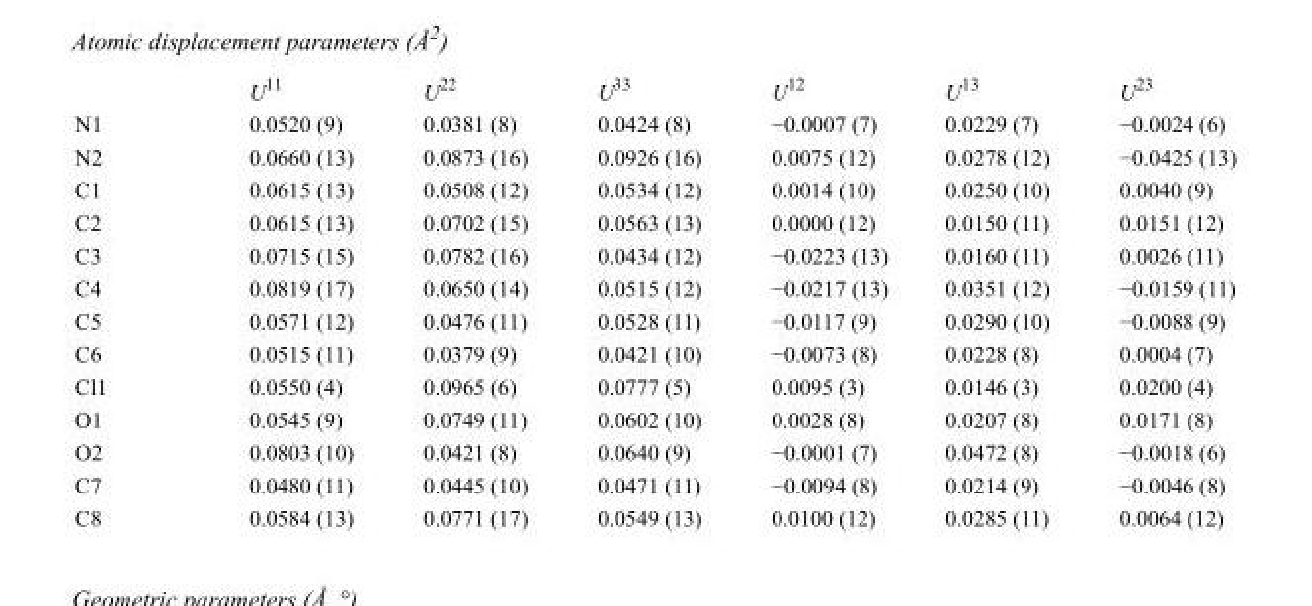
<table><thead><tr><td></td><td>U<sup>11</sup></td><td>U<sup>22</sup></td><td>U<sup>33</sup></td><td>U<sup>12</sup></td><td>U<sup>13</sup></td><td>U<sup>23</sup></td></tr></thead><tbody><tr><td>N1</td><td>0.0520 (9)</td><td>0.0381 (8)</td><td>0.0424 (8)</td><td>−0.0007 (7)</td><td>0.0229 (7)</td><td>−0.0024 (6)</td></tr><tr><td>N2</td><td>0.0660 (13)</td><td>0.0873 (16)</td><td>0.0926 (16)</td><td>0.0075 (12)</td><td>0.0278 (12)</td><td>−0.0425 (13)</td></tr><tr><td>C1</td><td>0.0615 (13)</td><td>0.0508 (12)</td><td>0.0534 (12)</td><td>0.0014 (10)</td><td>0.0250 (10)</td><td>0.0040 (9)</td></tr><tr><td>C2</td><td>0.0615 (13)</td><td>0.0702 (15)</td><td>0.0563 (13)</td><td>0.0000 (12)</td><td>0.0150 (11)</td><td>0.0151 (12)</td></tr><tr><td>C3</td><td>0.0715 (15)</td><td>0.0782 (16)</td><td>0.0434 (12)</td><td>−0.0223 (13)</td><td>0.0160 (11)</td><td>0.0026 (11)</td></tr><tr><td>C4</td><td>0.0819 (17)</td><td>0.0650 (14)</td><td>0.0515 (12)</td><td>−0.0217 (13)</td><td>0.0351 (12)</td><td>−0.0159 (11)</td></tr><tr><td>C5</td><td>0.0571 (12)</td><td>0.0476 (11)</td><td>0.0528 (11)</td><td>−0.0117 (9)</td><td>0.0290 (10)</td><td>−0.0088 (9)</td></tr><tr><td>C6</td><td>0.0515 (11)</td><td>0.0379 (9)</td><td>0.0421 (10)</td><td>−0.0073 (8)</td><td>0.0228 (8)</td><td>0.0004 (7)</td></tr><tr><td>Cl1</td><td>0.0550 (4)</td><td>0.0965 (6)</td><td>0.0777 (5)</td><td>0.0095 (3)</td><td>0.0146 (3)</td><td>0.0200 (4)</td></tr><tr><td>O1</td><td>0.0545 (9)</td><td>0.0749 (11)</td><td>0.0602 (10)</td><td>0.0028 (8)</td><td>0.0207 (8)</td><td>0.0171 (8)</td></tr><tr><td>O2</td><td>0.0803 (10)</td><td>0.0421 (8)</td><td>0.0640 (9)</td><td>−0.0001 (7)</td><td>0.0472 (8)</td><td>−0.0018 (6)</td></tr><tr><td>C7</td><td>0.0480 (11)</td><td>0.0445 (10)</td><td>0.0471 (11)</td><td>−0.0094 (8)</td><td>0.0214 (9)</td><td>−0.0046 (8)</td></tr><tr><td>C8</td><td>0.0584 (13)</td><td>0.0771 (17)</td><td>0.0549 (13)</td><td>0.0100 (12)</td><td>0.0285 (11)</td><td>0.0064 (12)</td></tr></tbody></table>